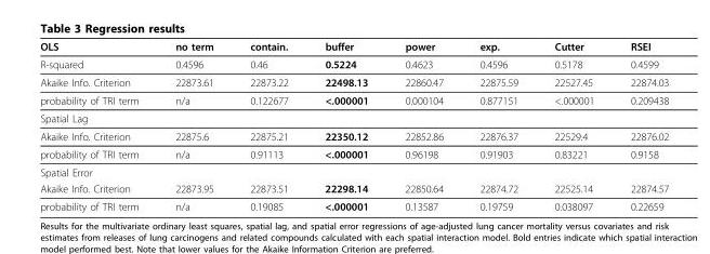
<table><thead><tr><td>OLS</td><td>no term</td><td>contain.</td><td>buffer</td><td>power</td><td>exp.</td><td>Cutter</td><td>RSEI</td></tr></thead><tbody><tr><td>R-squared</td><td>0.4596</td><td>0.46</td><td>0.5224</td><td>0.4623</td><td>0.4596</td><td>0.5178</td><td>0.4599</td></tr><tr><td>Akaike Info. Criterion</td><td>22873.61</td><td>22873.22</td><td>22498.13</td><td>22860.47</td><td>22875.59</td><td>22527.45</td><td>22874.03</td></tr><tr><td>probability of TRI term</td><td>n/a</td><td>0.122677</td><td>&lt;.000001</td><td>0.000104</td><td>0.877151</td><td>&lt;.000001</td><td>0.209438</td></tr><tr><td colspan="8">Spatial Lag</td></tr><tr><td>Akaike Info. Criterion</td><td>22875.6</td><td>22875.21</td><td>22350.12</td><td>22852.86</td><td>22876.37</td><td>22529.4</td><td>22876.02</td></tr><tr><td>probability of TRI term</td><td>n/a</td><td>0.91113</td><td>&lt;.000001</td><td>0.96198</td><td>0.91903</td><td>0.83221</td><td>0.9158</td></tr><tr><td colspan="8">Spatial Error</td></tr><tr><td>Akaike Info. Criterion</td><td>22873.95</td><td>22873.51</td><td>22298.14</td><td>22850.64</td><td>22874.72</td><td>22525.14</td><td>22874.57</td></tr><tr><td>probability of TRI term</td><td>n/a</td><td>0.19085</td><td>&lt;.000001</td><td>0.13587</td><td>0.19759</td><td>0.038097</td><td>0.22659</td></tr></tbody></table>